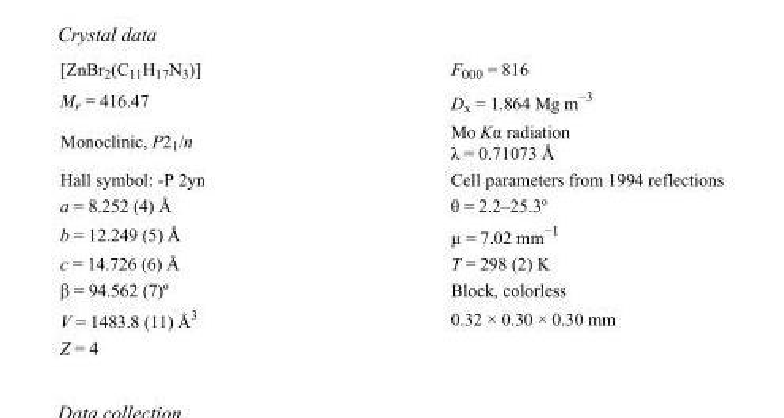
<table><tbody><tr><td>[ZnBr<sub>2</sub>(C<sub>11</sub>H<sub>17</sub>N<sub>3</sub>)]</td><td>F<sub>000</sub> = 816</td></tr><tr><td>M<sub>r</sub> = 416.47</td><td>D<sub>x</sub> = 1.864 Mg m<sup>−3</sup></td></tr><tr><td>Monoclinic, P2<sub>1</sub>/n</td><td>Mo Kα radiation λ = 0.71073 Å</td></tr><tr><td>Hall symbol: -P 2yn</td><td>Cell parameters from 1994 reflections</td></tr><tr><td>a = 8.252 (4) Å</td><td>θ = 2.2–25.3º</td></tr><tr><td>b = 12.249 (5) Å</td><td>µ = 7.02 mm<sup>−1</sup></td></tr><tr><td>c = 14.726 (6) Å</td><td>T = 298 (2) K</td></tr><tr><td>β = 94.562 (7)º</td><td>Block, colorless</td></tr><tr><td>V = 1483.8 (11) Å<sup>3</sup></td><td>0.32 × 0.30 × 0.30 mm</td></tr><tr><td>Z = 4</td><td></td></tr></tbody></table>